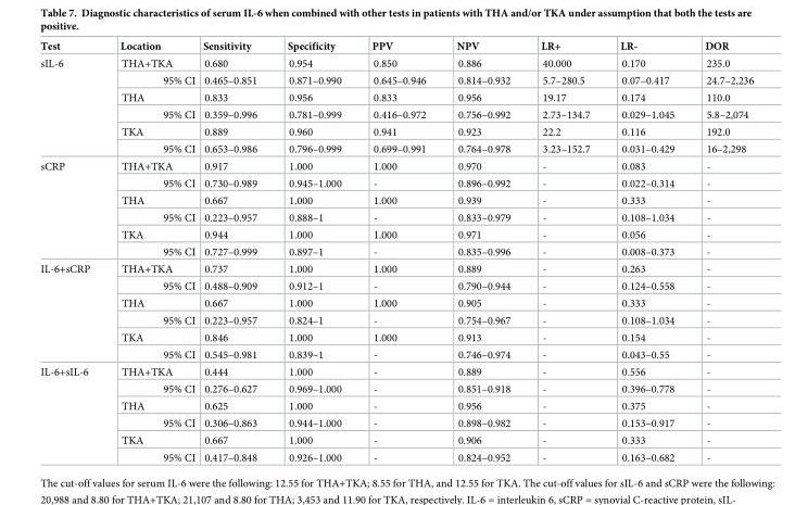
<table><thead><tr><td>Test</td><td>Location</td><td>Sensitivity</td><td>Specificity</td><td>PPV</td><td>NPV</td><td>LR+</td><td>LR-</td><td>DOR</td></tr></thead><tbody><tr><td rowspan="6">sIL-6</td><td>THA+TKA</td><td>0.680</td><td>0.954</td><td>0.850</td><td>0.886</td><td>40.000</td><td>0.170</td><td>235.0</td></tr><tr><td>95% CI</td><td>0.465–0.851</td><td>0.871–0.990</td><td>0.645–0.946</td><td>0.814–0.932</td><td>5.7–280.5</td><td>0.07–0.417</td><td>24.7–2,236</td></tr><tr><td>THA</td><td>0.833</td><td>0.956</td><td>0.833</td><td>0.956</td><td>19.17</td><td>0.174</td><td>110.0</td></tr><tr><td>95% CI</td><td>0.359–0.996</td><td>0.781–0.999</td><td>0.416–0.972</td><td>0.756–0.992</td><td>2.73–134.7</td><td>0.029–1.045</td><td>5.8–2,074</td></tr><tr><td>TKA</td><td>0.889</td><td>0.960</td><td>0.941</td><td>0.923</td><td>22.2</td><td>0.116</td><td>192.0</td></tr><tr><td>95% CI</td><td>0.653–0.986</td><td>0.796–0.999</td><td>0.699–0.991</td><td>0.764–0.978</td><td>3.23–152.7</td><td>0.031–0.429</td><td>16–2,298</td></tr><tr><td rowspan="6">sCRP</td><td>THA+TKA</td><td>0.917</td><td>1.000</td><td>1.000</td><td>0.970</td><td>-</td><td>0.083</td><td>-</td></tr><tr><td>95% CI</td><td>0.730–0.989</td><td>0.945–1.000</td><td>-</td><td>0.896–0.992</td><td>-</td><td>0.022–0.314</td><td>-</td></tr><tr><td>THA</td><td>0.667</td><td>1.000</td><td>1.000</td><td>0.939</td><td>-</td><td>0.333</td><td>-</td></tr><tr><td>95% CI</td><td>0.223–0.957</td><td>0.888–1</td><td>-</td><td>0.833–0.979</td><td>-</td><td>0.108–1.034</td><td>-</td></tr><tr><td>TKA</td><td>0.944</td><td>1.000</td><td>1.000</td><td>0.971</td><td>-</td><td>0.056</td><td>-</td></tr><tr><td>95% CI</td><td>0.727–0.999</td><td>0.897–1</td><td>-</td><td>0.835–0.996</td><td>-</td><td>0.008–0.373</td><td>-</td></tr><tr><td rowspan="6">IL-6+sCRP</td><td>THA+TKA</td><td>0.737</td><td>1.000</td><td>1.000</td><td>0.889</td><td>-</td><td>0.263</td><td>-</td></tr><tr><td>95% CI</td><td>0.488–0.909</td><td>0.912–1</td><td>-</td><td>0.790–0.944</td><td>-</td><td>0.124–0.558</td><td>-</td></tr><tr><td>THA</td><td>0.667</td><td>1.000</td><td>1.000</td><td>0.905</td><td>-</td><td>0.333</td><td>-</td></tr><tr><td>95% CI</td><td>0.223–0.957</td><td>0.824–1</td><td>-</td><td>0.754–0.967</td><td>-</td><td>0.108–1.034</td><td>-</td></tr><tr><td>TKA</td><td>0.846</td><td>1.000</td><td>1.000</td><td>0.913</td><td>-</td><td>0.154</td><td>-</td></tr><tr><td>95% CI</td><td>0.545–0.981</td><td>0.839–1</td><td>-</td><td>0.746–0.974</td><td>-</td><td>0.043–0.55</td><td>-</td></tr><tr><td rowspan="6">IL-6+sIL-6</td><td>THA+TKA</td><td>0.444</td><td>1.000</td><td>-</td><td>0.889</td><td>-</td><td>0.556</td><td>-</td></tr><tr><td>95% CI</td><td>0.276–0.627</td><td>0.969–1.000</td><td>-</td><td>0.851–0.918</td><td>-</td><td>0.396–0.778</td><td>-</td></tr><tr><td>THA</td><td>0.625</td><td>1.000</td><td>-</td><td>0.956</td><td>-</td><td>0.375</td><td>-</td></tr><tr><td>95% CI</td><td>0.306–0.863</td><td>0.944–1.000</td><td>-</td><td>0.898–0.982</td><td>-</td><td>0.153–0.917</td><td>-</td></tr><tr><td>TKA</td><td>0.667</td><td>1.000</td><td>-</td><td>0.906</td><td>-</td><td>0.333</td><td>-</td></tr><tr><td>95% CI</td><td>0.417–0.848</td><td>0.926–1.000</td><td>-</td><td>0.824–0.952</td><td>-</td><td>0.163–0.682</td><td>-</td></tr></tbody></table>